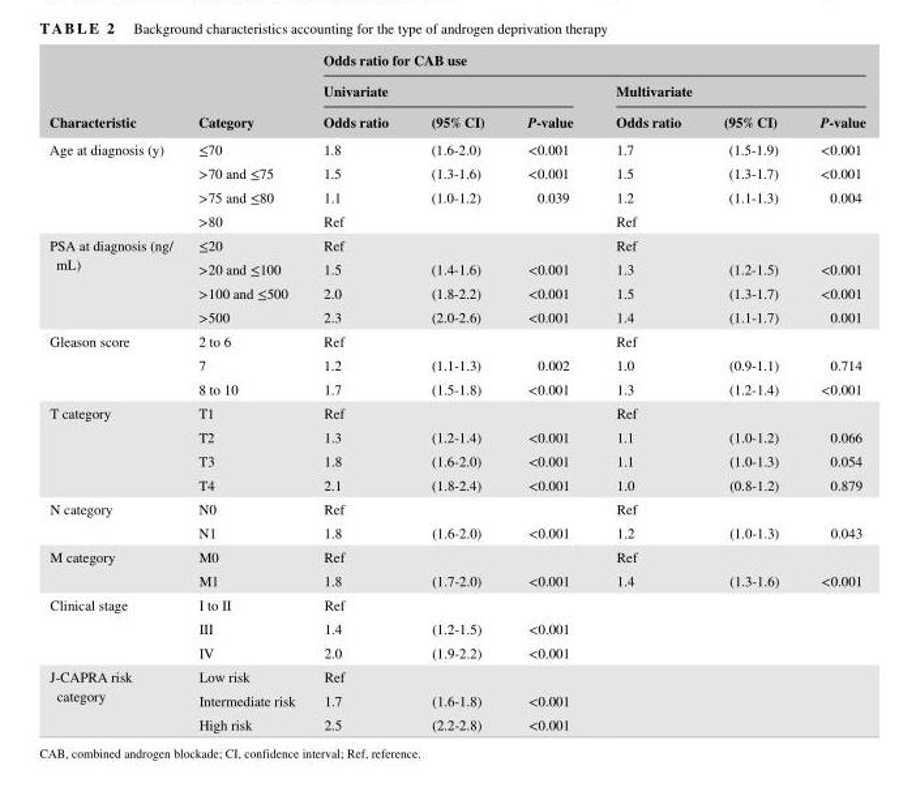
<table><thead><tr><td rowspan="3">Characteristic</td><td rowspan="3">Category</td><td colspan="6">Odds ratio for CAB use</td></tr><tr><td colspan="3">Univariate</td><td colspan="3">Multivariate</td></tr><tr><td>Odds ratio</td><td>(95% CI)</td><td>P- value</td><td>Odds ratio</td><td>(95% CI)</td><td>P- value</td></tr></thead><tbody><tr><td rowspan="4">Age at diagnosis (y)</td><td>≤70</td><td>1.8</td><td>(1.6- 2.0)</td><td>&lt;0.001</td><td>1.7</td><td>(1.5- 1.9)</td><td>&lt;0.001</td></tr><tr><td>&gt;70 and ≤75</td><td>1.5</td><td>(1.3- 1.6)</td><td>&lt;0.001</td><td>1.5</td><td>(1.3- 1.7)</td><td>&lt;0.001</td></tr><tr><td>&gt;75 and ≤80</td><td>1.1</td><td>(1.0- 1.2)</td><td>0.039</td><td>1.2</td><td>(1.1- 1.3)</td><td>0.004</td></tr><tr><td>&gt;80</td><td>Ref</td><td></td><td></td><td>Ref</td><td></td><td></td></tr><tr><td rowspan="4">PSA at diagnosis (ng/ mL)</td><td>≤20</td><td>Ref</td><td></td><td></td><td>Ref</td><td></td><td></td></tr><tr><td>&gt;20 and ≤100</td><td>1.5</td><td>(1.4- 1.6)</td><td>&lt;0.001</td><td>1.3</td><td>(1.2- 1.5)</td><td>&lt;0.001</td></tr><tr><td>&gt;100 and ≤500</td><td>2.0</td><td>(1.8- 2.2)</td><td>&lt;0.001</td><td>1.5</td><td>(1.3- 1.7)</td><td>&lt;0.001</td></tr><tr><td>&gt;500</td><td>2.3</td><td>(2.0- 2.6)</td><td>&lt;0.001</td><td>1.4</td><td>(1.1- 1.7)</td><td>0.001</td></tr><tr><td rowspan="3">Gleason score</td><td>2 to 6</td><td>Ref</td><td></td><td></td><td>Ref</td><td></td><td></td></tr><tr><td>7</td><td>1.2</td><td>(1.1- 1.3)</td><td>0.002</td><td>1.0</td><td>(0.9- 1.1)</td><td>0.714</td></tr><tr><td>8 to 10</td><td>1.7</td><td>(1.5- 1.8)</td><td>&lt;0.001</td><td>1.3</td><td>(1.2- 1.4)</td><td>&lt;0.001</td></tr><tr><td rowspan="4">T category</td><td>T1</td><td>Ref</td><td></td><td></td><td>Ref</td><td></td><td></td></tr><tr><td>T2</td><td>1.3</td><td>(1.2- 1.4)</td><td>&lt;0.001</td><td>1.1</td><td>(1.0- 1.2)</td><td>0.066</td></tr><tr><td>T3</td><td>1.8</td><td>(1.6- 2.0)</td><td>&lt;0.001</td><td>1.1</td><td>(1.0- 1.3)</td><td>0.054</td></tr><tr><td>T4</td><td>2.1</td><td>(1.8- 2.4)</td><td>&lt;0.001</td><td>1.0</td><td>(0.8- 1.2)</td><td>0.879</td></tr><tr><td rowspan="2">N category</td><td>N0</td><td>Ref</td><td></td><td></td><td>Ref</td><td></td><td></td></tr><tr><td>N1</td><td>1.8</td><td>(1.6- 2.0)</td><td>&lt;0.001</td><td>1.2</td><td>(1.0- 1.3)</td><td>0.043</td></tr><tr><td rowspan="2">M category</td><td>M0</td><td>Ref</td><td></td><td></td><td>Ref</td><td></td><td></td></tr><tr><td>M1</td><td>1.8</td><td>(1.7- 2.0)</td><td>&lt;0.001</td><td>1.4</td><td>(1.3- 1.6)</td><td>&lt;0.001</td></tr><tr><td rowspan="3">Clinical stage</td><td>I to II</td><td>Ref</td><td></td><td></td><td></td><td></td><td></td></tr><tr><td>III</td><td>1.4</td><td>(1.2- 1.5)</td><td>&lt;0.001</td><td></td><td></td><td></td></tr><tr><td>IV</td><td>2.0</td><td>(1.9- 2.2)</td><td>&lt;0.001</td><td></td><td></td><td></td></tr><tr><td rowspan="3">J- CAPRA risk category</td><td>Low risk</td><td>Ref</td><td></td><td></td><td></td><td></td><td></td></tr><tr><td>Intermediate risk</td><td>1.7</td><td>(1.6- 1.8)</td><td>&lt;0.001</td><td></td><td></td><td></td></tr><tr><td>High risk</td><td>2.5</td><td>(2.2- 2.8)</td><td>&lt;0.001</td><td></td><td></td><td></td></tr></tbody></table>